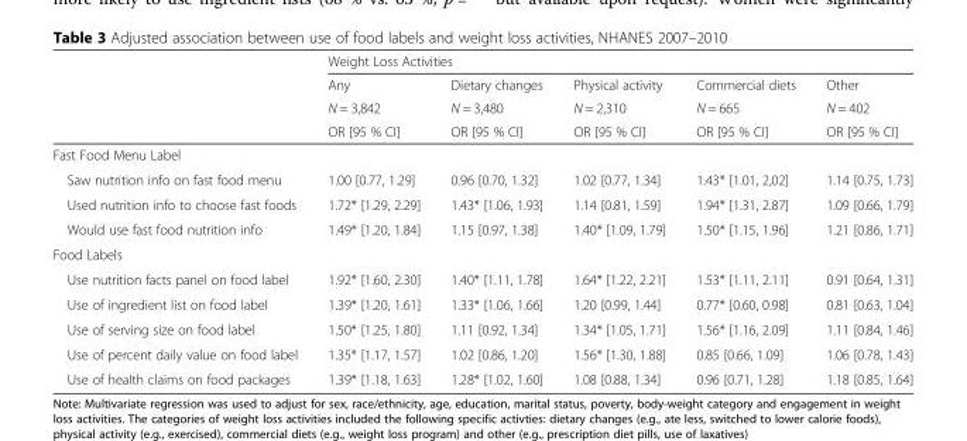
<table><thead><tr><td rowspan="4"></td><td colspan="5">Weight Loss Activities</td></tr><tr><td rowspan="3">Any N = 3,842 OR [95 % CI]</td><td rowspan="3">Dietary changes N = 3,480 OR [95 % CI]</td><td rowspan="3">Physical activity N = 2,310 OR [95 % CI]</td><td rowspan="3">Commercial diets N = 665 OR [95 % CI]</td><td rowspan="3">Other N = 402 OR [95 % CI]</td></tr><tr></tr><tr></tr></thead><tbody><tr><td colspan="6">Fast Food Menu Label</td></tr><tr><td>Saw nutrition info on fast food menu</td><td>1.00 [0.77, 1.29]</td><td>0.96 [0.70, 1.32]</td><td>1.02 [0.77, 1.34]</td><td>1.43* [1.01, 2,02]</td><td>1.14 [0.75, 1.73]</td></tr><tr><td>Used nutrition info to choose fast foods</td><td>1.72* [1.29, 2.29]</td><td>1.43* [1.06, 1.93]</td><td>1.14 [0.81, 1.59]</td><td>1.94* [1.31, 2.87]</td><td>1.09 [0.66, 1.79]</td></tr><tr><td>Would use fast food nutrition info</td><td>1.49* [1.20, 1.84]</td><td>1.15 [0.97, 1.38]</td><td>1.40* [1.09, 1.79]</td><td>1.50* [1.15, 1.96]</td><td>1.21 [0.86, 1.71]</td></tr><tr><td colspan="6">Food Labels</td></tr><tr><td>Use nutrition facts panel on food label</td><td>1.92* [1.60, 2.30]</td><td>1.40* [1.11, 1.78]</td><td>1.64* [1.22, 2.21]</td><td>1.53* [1.11, 2.11]</td><td>0.91 [0.64, 1.31]</td></tr><tr><td>Use of ingredient list on food label</td><td>1.39* [1.20, 1.61]</td><td>1.33* [1.06, 1.66]</td><td>1.20 [0.99, 1.44]</td><td>0.77* [0.60, 0.98]</td><td>0.81 [0.63, 1.04]</td></tr><tr><td>Use of serving size on food label</td><td>1.50* [1.25, 1.80]</td><td>1.11 [0.92, 1.34]</td><td>1.34* [1.05, 1.71]</td><td>1.56* [1.16, 2.09]</td><td>1.11 [0.84, 1.46]</td></tr><tr><td>Use of percent daily value on food label</td><td>1.35* [1.17, 1.57]</td><td>1.02 [0.86, 1.20]</td><td>1.56* [1.30, 1.88]</td><td>0.85 [0.66, 1.09]</td><td>1.06 [0.78, 1.43]</td></tr><tr><td>Use of health claims on food packages</td><td>1.39* [1.18, 1.63]</td><td>1.28* [1.02, 1.60]</td><td>1.08 [0.88, 1.34]</td><td>0.96 [0.71, 1.28]</td><td>1.18 [0.85, 1.64]</td></tr></tbody></table>